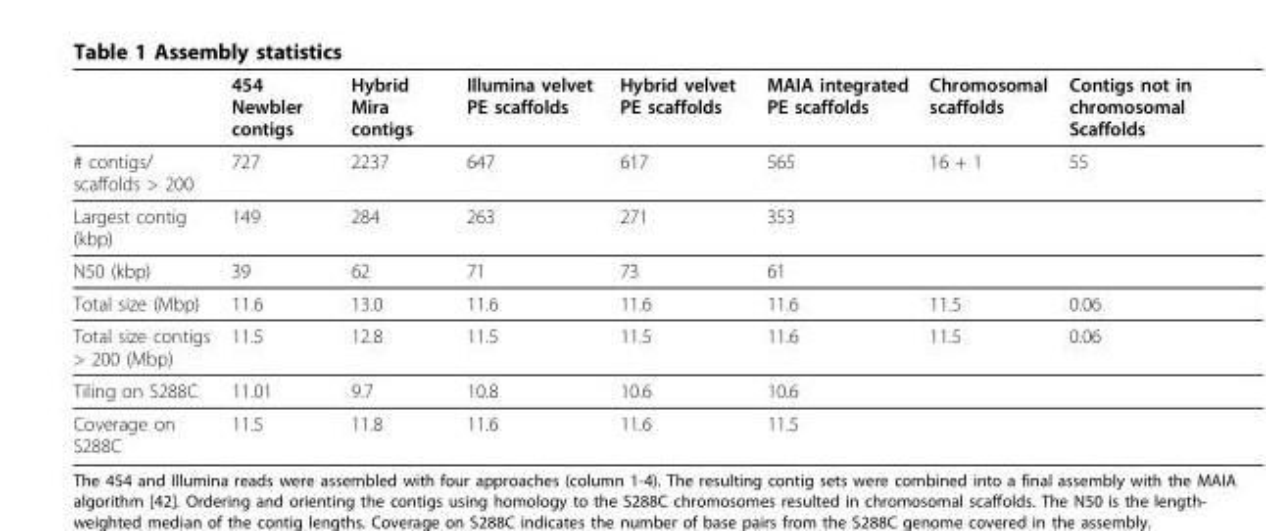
<table><thead><tr><td></td><td>454 Newbler contigs</td><td>Hybrid Mira contigs</td><td>Illumina velvet PE scaffolds</td><td>Hybrid velvet PE scaffolds</td><td>MAIA integrated PE scaffolds</td><td>Chromosomal scaffolds</td><td>Contigs not in chromosomal Scaffolds</td></tr></thead><tbody><tr><td># contigs/ scaffolds &gt; 200</td><td>727</td><td>2237</td><td>647</td><td>617</td><td>565</td><td>16 + 1</td><td>55</td></tr><tr><td>Largest contig (kbp)</td><td>149</td><td>284</td><td>263</td><td>271</td><td>353</td><td></td><td></td></tr><tr><td>N50 (kbp)</td><td>39</td><td>62</td><td>71</td><td>73</td><td>61</td><td></td><td></td></tr><tr><td>Total size (Mbp)</td><td>11.6</td><td>13.0</td><td>11.6</td><td>11.6</td><td>11.6</td><td>11.5</td><td>0.06</td></tr><tr><td>Total size contigs &gt; 200 (Mbp)</td><td>11.5</td><td>12.8</td><td>11.5</td><td>11.5</td><td>11.6</td><td>11.5</td><td>0.06</td></tr><tr><td>Tiling on S288C</td><td>11.01</td><td>9.7</td><td>10.8</td><td>10.6</td><td>10.6</td><td></td><td></td></tr><tr><td>Coverage on S288C</td><td>11.5</td><td>11.8</td><td>11.6</td><td>11.6</td><td>11.5</td><td></td><td></td></tr></tbody></table>